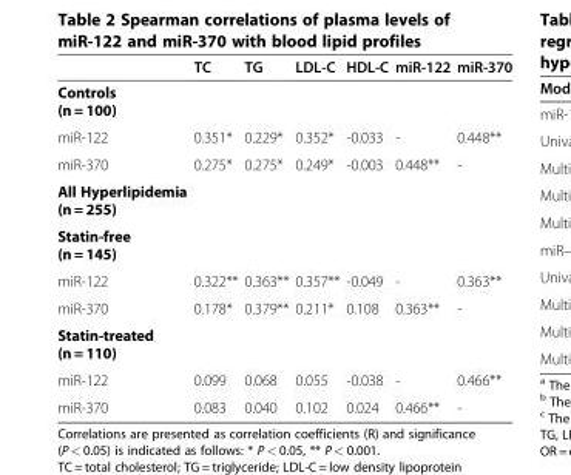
<table><thead><tr><td></td><td>TC</td><td>TG</td><td>LDL-C</td><td>HDL-C</td><td>miR-122</td><td>miR-370</td></tr></thead><tbody><tr><td colspan="7">Controls (n = 100)</td></tr><tr><td>miR-122</td><td>0.351*</td><td>0.229*</td><td>0.352*</td><td>-0.033</td><td>-</td><td>0.448**</td></tr><tr><td>miR-370</td><td>0.275*</td><td>0.275*</td><td>0.249*</td><td>-0.003</td><td>0.448**</td><td>-</td></tr><tr><td colspan="7">All Hyperlipidemia (n = 255)</td></tr><tr><td colspan="7">Statin-free (n = 145)</td></tr><tr><td>miR-122</td><td>0.322**</td><td>0.363**</td><td>0.357**</td><td>-0.049</td><td>-</td><td>0.363**</td></tr><tr><td>miR-370</td><td>0.178*</td><td>0.379**</td><td>0.211*</td><td>0.108</td><td>0.363**</td><td>-</td></tr><tr><td colspan="7">Statin-treated (n = 110)</td></tr><tr><td>miR-122</td><td>0.099</td><td>0.068</td><td>0.055</td><td>-0.038</td><td>-</td><td>0.466**</td></tr><tr><td>miR-370</td><td>0.083</td><td>0.040</td><td>0.102</td><td>0.024</td><td>0.466**</td><td>-</td></tr></tbody></table>